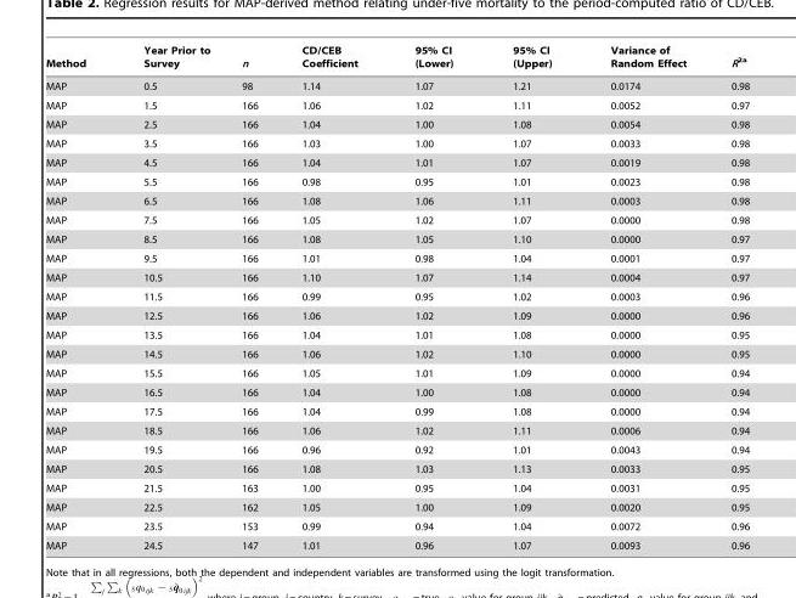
<table><thead><tr><td>Method</td><td>Year Prior to Survey</td><td>n</td><td>CD/CEB Coefficient</td><td>95% CI (Lower)</td><td>95% CI (Upper)</td><td>Variance of Random Effect</td><td>R<sup>2a</sup></td></tr></thead><tbody><tr><td>MAP</td><td>0.5</td><td>98</td><td>1.14</td><td>1.07</td><td>1.21</td><td>0.0174</td><td>0.98</td></tr><tr><td>MAP</td><td>1.5</td><td>166</td><td>1.06</td><td>1.02</td><td>1.11</td><td>0.0052</td><td>0.97</td></tr><tr><td>MAP</td><td>2.5</td><td>166</td><td>1.04</td><td>1.00</td><td>1.08</td><td>0.0054</td><td>0.98</td></tr><tr><td>MAP</td><td>3.5</td><td>166</td><td>1.03</td><td>1.00</td><td>1.07</td><td>0.0033</td><td>0.98</td></tr><tr><td>MAP</td><td>4.5</td><td>166</td><td>1.04</td><td>1.01</td><td>1.07</td><td>0.0019</td><td>0.98</td></tr><tr><td>MAP</td><td>5.5</td><td>166</td><td>0.98</td><td>0.95</td><td>1.01</td><td>0.0023</td><td>0.98</td></tr><tr><td>MAP</td><td>6.5</td><td>166</td><td>1.08</td><td>1.06</td><td>1.11</td><td>0.0003</td><td>0.98</td></tr><tr><td>MAP</td><td>7.5</td><td>166</td><td>1.05</td><td>1.02</td><td>1.07</td><td>0.0000</td><td>0.98</td></tr><tr><td>MAP</td><td>8.5</td><td>166</td><td>1.08</td><td>1.05</td><td>1.10</td><td>0.0000</td><td>0.97</td></tr><tr><td>MAP</td><td>9.5</td><td>166</td><td>1.01</td><td>0.98</td><td>1.04</td><td>0.0001</td><td>0.97</td></tr><tr><td>MAP</td><td>10.5</td><td>166</td><td>1.10</td><td>1.07</td><td>1.14</td><td>0.0004</td><td>0.97</td></tr><tr><td>MAP</td><td>11.5</td><td>166</td><td>0.99</td><td>0.95</td><td>1.02</td><td>0.0003</td><td>0.96</td></tr><tr><td>MAP</td><td>12.5</td><td>166</td><td>1.06</td><td>1.02</td><td>1.09</td><td>0.0000</td><td>0.96</td></tr><tr><td>MAP</td><td>13.5</td><td>166</td><td>1.04</td><td>1.01</td><td>1.08</td><td>0.0000</td><td>0.95</td></tr><tr><td>MAP</td><td>14.5</td><td>166</td><td>1.06</td><td>1.02</td><td>1.10</td><td>0.0000</td><td>0.95</td></tr><tr><td>MAP</td><td>15.5</td><td>166</td><td>1.05</td><td>1.01</td><td>1.09</td><td>0.0000</td><td>0.94</td></tr><tr><td>MAP</td><td>16.5</td><td>166</td><td>1.04</td><td>1.00</td><td>1.08</td><td>0.0000</td><td>0.94</td></tr><tr><td>MAP</td><td>17.5</td><td>166</td><td>1.04</td><td>0.99</td><td>1.08</td><td>0.0000</td><td>0.94</td></tr><tr><td>MAP</td><td>18.5</td><td>166</td><td>1.06</td><td>1.02</td><td>1.11</td><td>0.0006</td><td>0.94</td></tr><tr><td>MAP</td><td>19.5</td><td>166</td><td>0.96</td><td>0.92</td><td>1.01</td><td>0.0043</td><td>0.94</td></tr><tr><td>MAP</td><td>20.5</td><td>166</td><td>1.08</td><td>1.03</td><td>1.13</td><td>0.0033</td><td>0.95</td></tr><tr><td>MAP</td><td>21.5</td><td>163</td><td>1.00</td><td>0.95</td><td>1.04</td><td>0.0031</td><td>0.95</td></tr><tr><td>MAP</td><td>22.5</td><td>162</td><td>1.05</td><td>1.00</td><td>1.09</td><td>0.0020</td><td>0.95</td></tr><tr><td>MAP</td><td>23.5</td><td>153</td><td>0.99</td><td>0.94</td><td>1.04</td><td>0.0072</td><td>0.96</td></tr><tr><td>MAP</td><td>24.5</td><td>147</td><td>1.01</td><td>0.96</td><td>1.07</td><td>0.0093</td><td>0.96</td></tr></tbody></table>